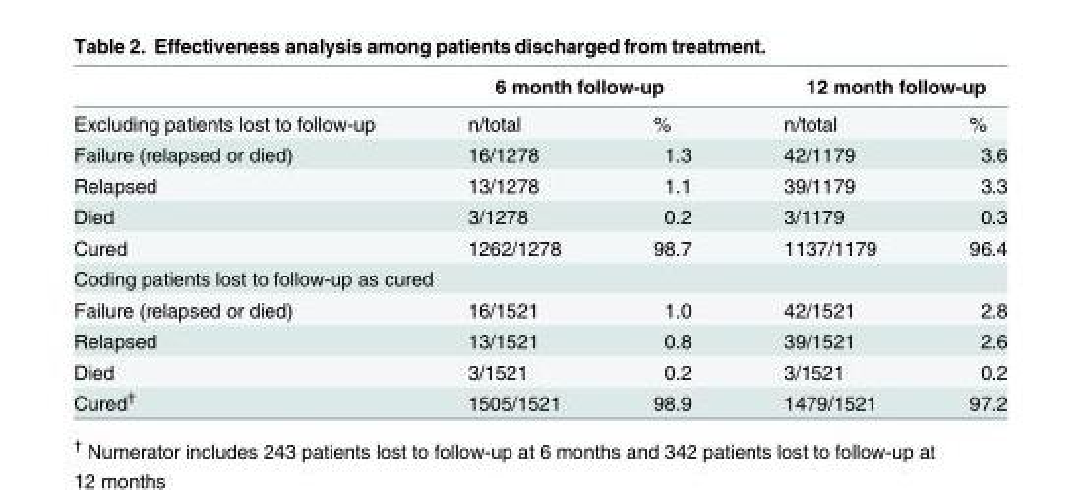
<table><thead><tr><td rowspan="2">Excluding patients lost to follow-up</td><td colspan="2">6 month follow-up</td><td colspan="2">12 month follow-up</td></tr><tr><td>n/total</td><td>%</td><td>n/total</td><td>%</td></tr></thead><tbody><tr><td>Failure (relapsed or died)</td><td>16/1278</td><td>1.3</td><td>42/1179</td><td>3.6</td></tr><tr><td>Relapsed</td><td>13/1278</td><td>1.1</td><td>39/1179</td><td>3.3</td></tr><tr><td>Died</td><td>3/1278</td><td>0.2</td><td>3/1179</td><td>0.3</td></tr><tr><td>Cured</td><td>1262/1278</td><td>98.7</td><td>1137/1179</td><td>96.4</td></tr><tr><td colspan="5">Coding patients lost to follow-up as cured</td></tr><tr><td>Failure (relapsed or died)</td><td>16/1521</td><td>1.0</td><td>42/1521</td><td>2.8</td></tr><tr><td>Relapsed</td><td>13/1521</td><td>0.8</td><td>39/1521</td><td>2.6</td></tr><tr><td>Died</td><td>3/1521</td><td>0.2</td><td>3/1521</td><td>0.2</td></tr><tr><td>Cured<sup>†</sup></td><td>1505/1521</td><td>98.9</td><td>1479/1521</td><td>97.2</td></tr></tbody></table>